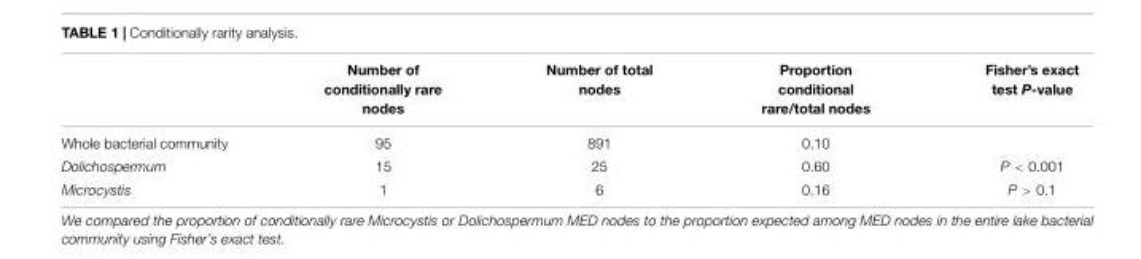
<table><thead><tr><td></td><td>Number of conditionally rare nodes</td><td>Number of total nodes</td><td>Proportion conditional rare/total nodes</td><td>Fisher’s exact test P-value</td></tr></thead><tbody><tr><td>Whole bacterial community</td><td>95</td><td>891</td><td>0.10</td><td></td></tr><tr><td>Dolichospermum</td><td>15</td><td>25</td><td>0.60</td><td>P &lt; 0.001</td></tr><tr><td>Microcystis</td><td>1</td><td>6</td><td>0.16</td><td>P &gt; 0.1</td></tr></tbody></table>